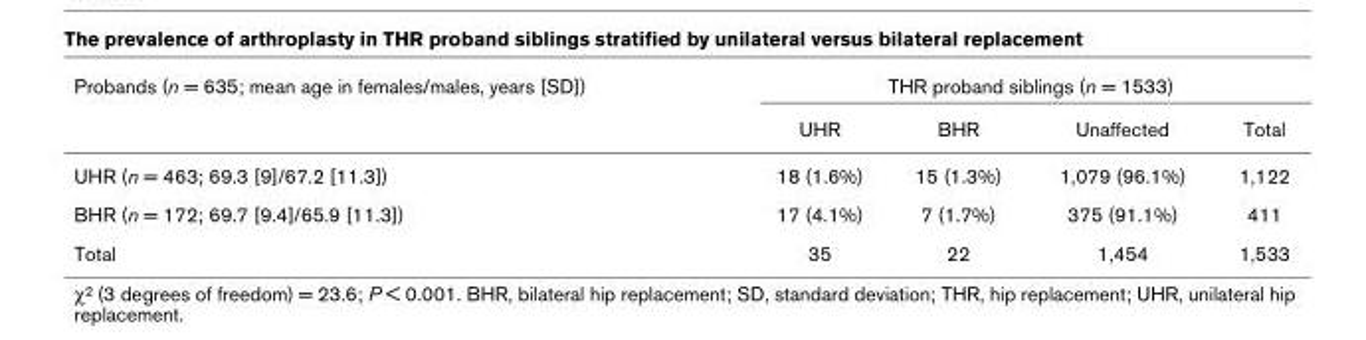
<table><thead><tr><td rowspan="2">Probands (n = 635; mean age in females/males, years [SD])</td><td colspan="4">THR proband siblings (n = 1533)</td></tr><tr><td>UHR</td><td>BHR</td><td>Unaffected</td><td>Total</td></tr></thead><tbody><tr><td>UHR (n = 463; 69.3 [9]/67.2 [11.3])</td><td>18 (1.6%)</td><td>15 (1.3%)</td><td>1,079 (96.1%)</td><td>1,122</td></tr><tr><td>BHR (n = 172; 69.7 [9.4]/65.9 [11.3])</td><td>17 (4.1%)</td><td>7 (1.7%)</td><td>375 (91.1%)</td><td>411</td></tr><tr><td>Total</td><td>35</td><td>22</td><td>1,454</td><td>1,533</td></tr></tbody></table>